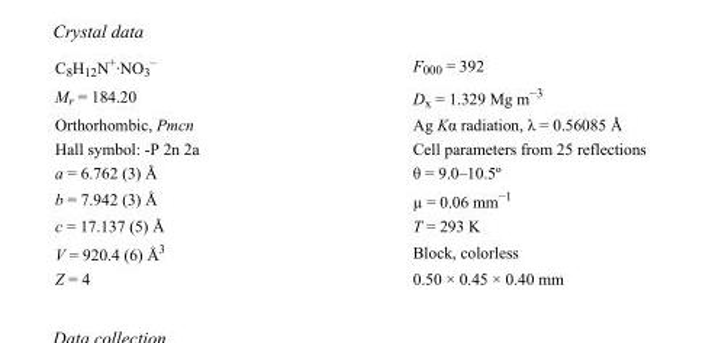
<table><tbody><tr><td>C<sub>8</sub>H<sub>12</sub>N<sup>+</sup>·NO<sub>3</sub> <sup>–</sup></td><td>F000 = 392</td></tr><tr><td>M<sub>r</sub> = 184.20</td><td>D<sub>x</sub> = 1.329 Mg m<sup>−3</sup></td></tr><tr><td>Orthorhombic, Pmcn</td><td>Ag Kα radiation, λ = 0.56085 Å</td></tr><tr><td>Hall symbol: -P 2n 2a</td><td>Cell parameters from 25 reflections</td></tr><tr><td>a = 6.762 (3) Å</td><td>θ = 9.0–10.5º</td></tr><tr><td>b = 7.942 (3) Å</td><td>µ = 0.06 mm<sup>−1</sup></td></tr><tr><td>c = 17.137 (5) Å</td><td>T = 293 K</td></tr><tr><td>V = 920.4 (6) Å<sup>3</sup></td><td>Block, colorless</td></tr><tr><td>Z = 4</td><td>0.50 × 0.45 × 0.40 mm</td></tr></tbody></table>